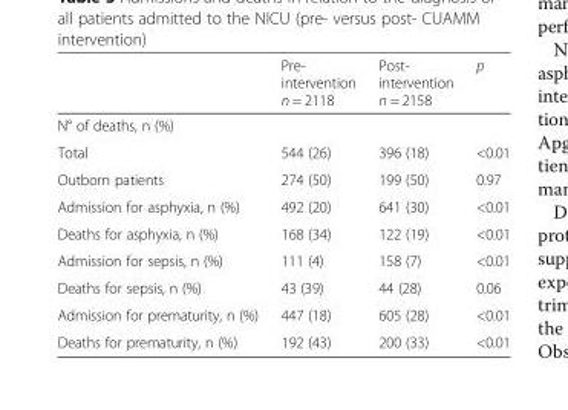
<table><thead><tr><td></td><td>Pre- intervention n = 2118</td><td>Post- intervention n = 2158</td><td>p</td></tr></thead><tbody><tr><td colspan="4">N° of deaths, n (%)</td></tr><tr><td>Total</td><td>544 (26)</td><td>396 (18)</td><td>&lt;0.01</td></tr><tr><td>Outborn patients</td><td>274 (50)</td><td>199 (50)</td><td>0.97</td></tr><tr><td>Admission for asphyxia, n (%)</td><td>492 (20)</td><td>641 (30)</td><td>&lt;0.01</td></tr><tr><td>Deaths for asphyxia, n (%)</td><td>168 (34)</td><td>122 (19)</td><td>&lt;0.01</td></tr><tr><td>Admission for sepsis, n (%)</td><td>111 (4)</td><td>158 (7)</td><td>&lt;0.01</td></tr><tr><td>Deaths for sepsis, n (%)</td><td>43 (39)</td><td>44 (28)</td><td>0.06</td></tr><tr><td>Admission for prematurity, n (%)</td><td>447 (18)</td><td>605 (28)</td><td>&lt;0.01</td></tr><tr><td>Deaths for prematurity, n (%)</td><td>192 (43)</td><td>200 (33)</td><td>&lt;0.01</td></tr></tbody></table>